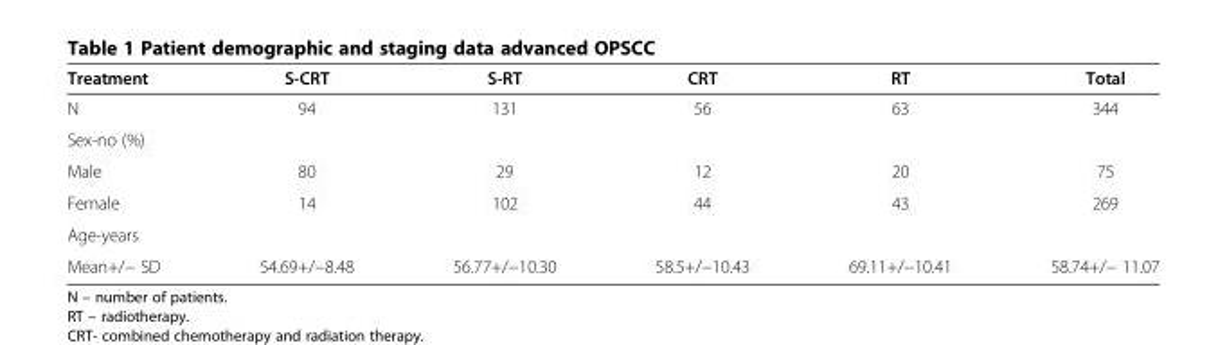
<table><thead><tr><td>Treatment</td><td>S-CRT</td><td>S-RT</td><td>CRT</td><td>RT</td><td>Total</td></tr></thead><tbody><tr><td>N</td><td>94</td><td>131</td><td>56</td><td>63</td><td>344</td></tr><tr><td colspan="6">Sex-no (%)</td></tr><tr><td>Male</td><td>80</td><td>29</td><td>12</td><td>20</td><td>75</td></tr><tr><td>Female</td><td>14</td><td>102</td><td>44</td><td>43</td><td>269</td></tr><tr><td colspan="6">Age-years</td></tr><tr><td>Mean+/− SD</td><td>54.69+/−8.48</td><td>56.77+/−10.30</td><td>58.5+/−10.43</td><td>69.11+/−10.41</td><td>58.74+/− 11.07</td></tr></tbody></table>